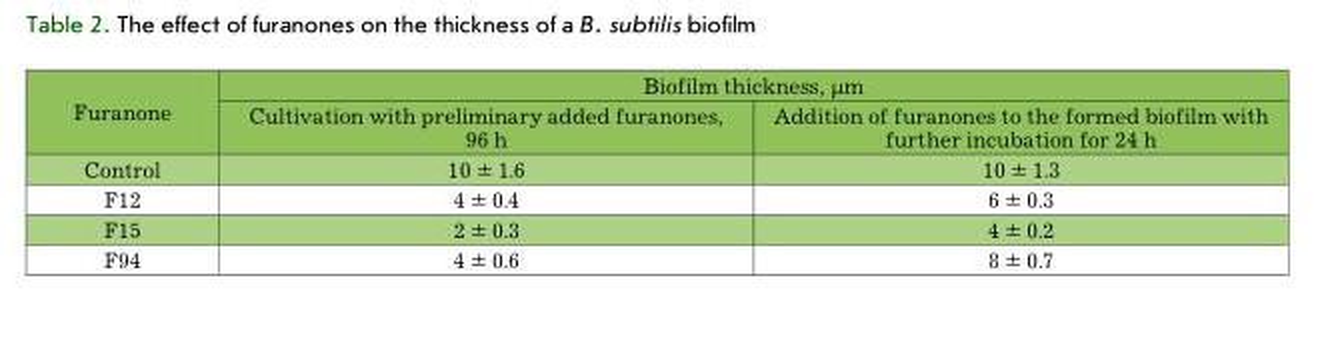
<table><thead><tr><td rowspan="2">Furanone</td><td colspan="2">Biofilm thickness, μm</td></tr><tr><td>Cultivation with preliminary added furanones, 96 h</td><td>Addition of furanones to the formed biofilm with further incubation for 24 h</td></tr></thead><tbody><tr><td>Control</td><td>10 ± 1.6</td><td>10 ± 1.3</td></tr><tr><td>F12</td><td>4 ± 0.4</td><td>6 ± 0.3</td></tr><tr><td>F15</td><td>2 ± 0.3</td><td>4 ± 0.2</td></tr><tr><td>F94</td><td>4 ± 0.6</td><td>8 ± 0.7</td></tr></tbody></table>